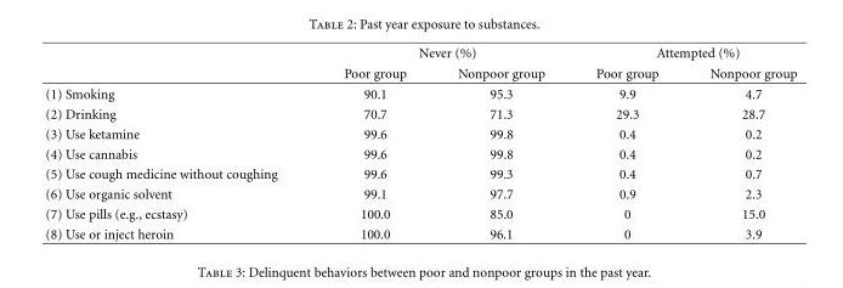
<table><thead><tr><td rowspan="2"></td><td colspan="2">Never (%)</td><td colspan="2">Attempted (%)</td></tr><tr><td>Poor group</td><td>Nonpoor group</td><td>Poor group</td><td>Nonpoor group</td></tr></thead><tbody><tr><td>(1) Smoking</td><td>90.1</td><td>95.3</td><td>9.9</td><td>4.7</td></tr><tr><td>(2) Drinking</td><td>70.7</td><td>71.3</td><td>29.3</td><td>28.7</td></tr><tr><td>(3) Use ketamine</td><td>99.6</td><td>99.8</td><td>0.4</td><td>0.2</td></tr><tr><td>(4) Use cannabis</td><td>99.6</td><td>99.8</td><td>0.4</td><td>0.2</td></tr><tr><td>(5) Use cough medicine without coughing</td><td>99.6</td><td>99.3</td><td>0.4</td><td>0.7</td></tr><tr><td>(6) Use organic solvent</td><td>99.1</td><td>97.7</td><td>0.9</td><td>2.3</td></tr><tr><td>(7) Use pills (e.g., ecstasy)</td><td>100.0</td><td>85.0</td><td>0</td><td>15.0</td></tr><tr><td>(8) Use or inject heroin</td><td>100.0</td><td>96.1</td><td>0</td><td>3.9</td></tr></tbody></table>